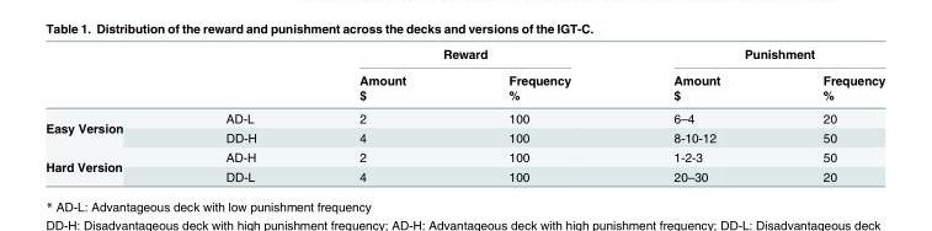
<table><thead><tr><td rowspan="3"></td><td rowspan="3"></td><td colspan="2">Reward</td><td colspan="2">Punishment</td></tr><tr><td rowspan="2">Amount $</td><td rowspan="2">Frequency %</td><td rowspan="2">Amount $</td><td rowspan="2">Frequency %</td></tr><tr></tr></thead><tbody><tr><td rowspan="2">Easy Version</td><td>AD-L</td><td>2</td><td>100</td><td>6–4</td><td>20</td></tr><tr><td>DD-H</td><td>4</td><td>100</td><td>8-10-12</td><td>50</td></tr><tr><td rowspan="2">Hard Version</td><td>AD-H</td><td>2</td><td>100</td><td>1-2-3</td><td>50</td></tr><tr><td>DD-L</td><td>4</td><td>100</td><td>20–30</td><td>20</td></tr></tbody></table>